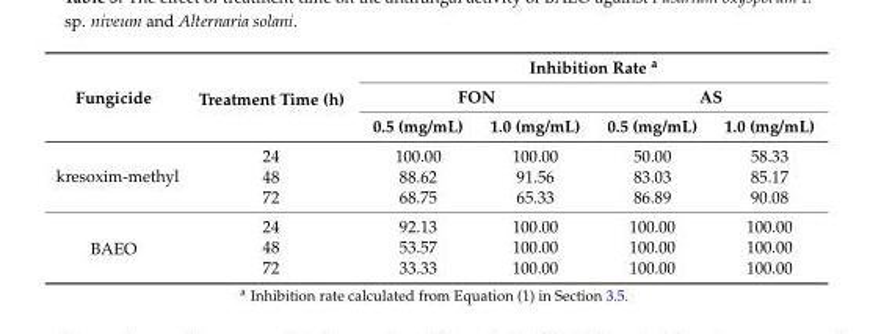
<table><thead><tr><td rowspan="3">Fungicide</td><td rowspan="3">Treatment Time (h)</td><td colspan="4">Inhibition Rate <sup>a</sup></td></tr><tr><td colspan="2">FON</td><td colspan="2">AS</td></tr><tr><td>0.5 (mg/mL)</td><td>1.0 (mg/mL)</td><td>0.5 (mg/mL)</td><td>1.0 (mg/mL)</td></tr></thead><tbody><tr><td rowspan="3">kresoxim-methyl</td><td>24</td><td>100.00</td><td>100.00</td><td>50.00</td><td>58.33</td></tr><tr><td>48</td><td>88.62</td><td>91.56</td><td>83.03</td><td>85.17</td></tr><tr><td>72</td><td>68.75</td><td>65.33</td><td>86.89</td><td>90.08</td></tr><tr><td rowspan="3">BAEO</td><td>24</td><td>92.13</td><td>100.00</td><td>100.00</td><td>100.00</td></tr><tr><td>48</td><td>53.57</td><td>100.00</td><td>100.00</td><td>100.00</td></tr><tr><td>72</td><td>33.33</td><td>100.00</td><td>100.00</td><td>100.00</td></tr></tbody></table>